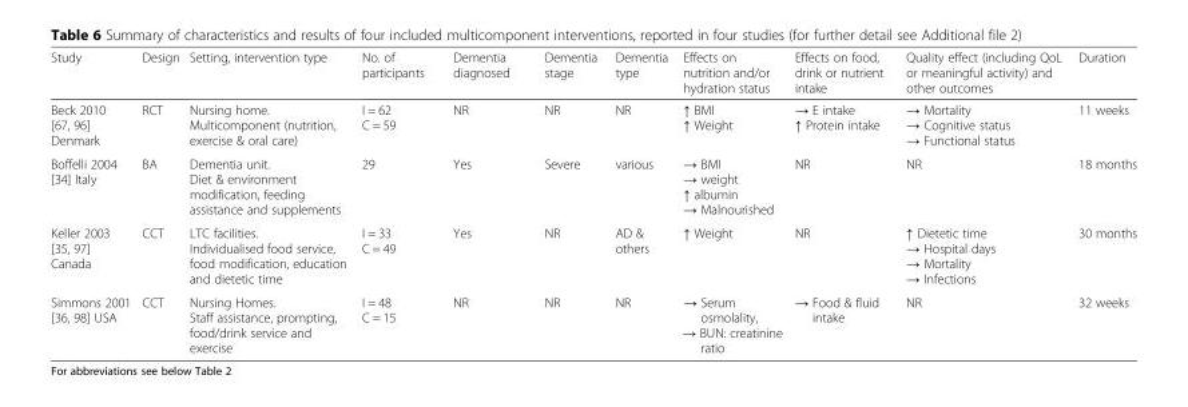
<table><thead><tr><td>Study</td><td>Design</td><td>Setting, intervention type</td><td>No. of participants</td><td>Dementia diagnosed</td><td>Dementia stage</td><td>Dementia type</td><td>Effects on nutrition and/or hydration status</td><td>Effects on food, drink or nutrient intake</td><td>Quality effect (including QoL or meaningful activity) and other outcomes</td><td>Duration</td></tr></thead><tbody><tr><td>Beck 2010 [67, 96] Denmark</td><td>RCT</td><td>Nursing home. Multicomponent (nutrition, exercise &amp; oral care)</td><td>I = 62 C = 59</td><td>NR</td><td>NR</td><td>NR</td><td>↑ BMI ↑ Weight</td><td>→ E intake ↑ Protein intake</td><td>→ Mortality → Cognitive status → Functional status</td><td>11 weeks</td></tr><tr><td>Boffelli 2004 [34] Italy</td><td>BA</td><td>Dementia unit. Diet &amp; environment modification, feeding assistance and supplements</td><td>29</td><td>Yes</td><td>Severe</td><td>various</td><td>→ BMI → weight ↑ albumin → Malnourished</td><td>NR</td><td>NR</td><td>18 months</td></tr><tr><td>Keller 2003 [35, 97] Canada</td><td>CCT</td><td>LTC facilities. Individualised food service, food modification, education and dietetic time</td><td>I = 33 C = 49</td><td>Yes</td><td>NR</td><td>AD &amp; others</td><td>↑ Weight</td><td>NR</td><td>↑ Dietetic time → Hospital days → Mortality → Infections</td><td>30 months</td></tr><tr><td>Simmons 2001 [36, 98] USA</td><td>CCT</td><td>Nursing Homes. Staff assistance, prompting, food/drink service and exercise</td><td>I = 48 C = 15</td><td>NR</td><td>NR</td><td>NR</td><td>→ Serum osmolality, → BUN: creatinine ratio</td><td>→ Food &amp; fluid intake</td><td>NR</td><td>32 weeks</td></tr></tbody></table>